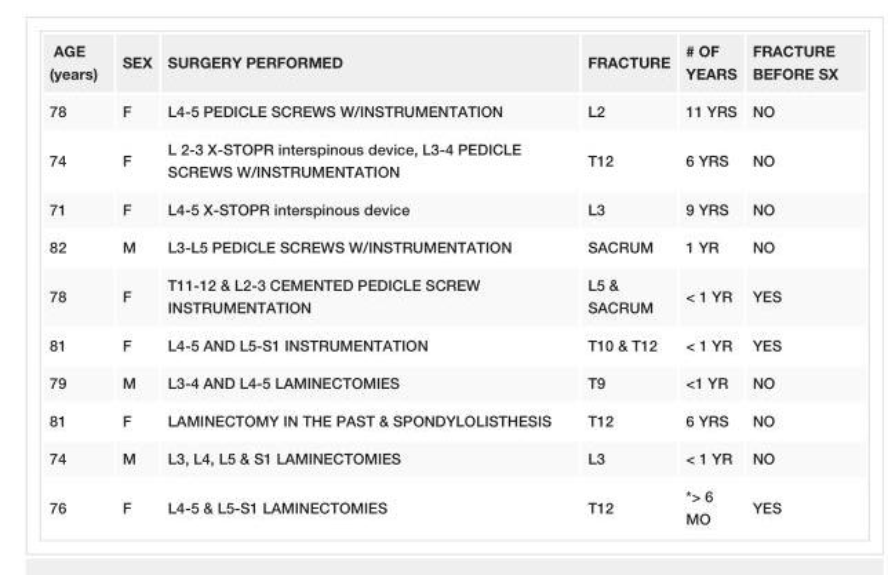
<table><tbody><tr><td>AGE (years)</td><td>SEX</td><td>SURGERY PERFORMED</td><td>FRACTURE</td><td># OF YEARS</td><td>FRACTURE BEFORE SX</td></tr><tr><td>78</td><td>F</td><td>L4-5 PEDICLE SCREWS W/INSTRUMENTATION</td><td>L2</td><td>11 YRS</td><td>NO</td></tr><tr><td>74</td><td>F</td><td>L 2-3 X-STOPR interspinous device, L3-4 PEDICLE SCREWS W/INSTRUMENTATION</td><td>T12</td><td>6 YRS</td><td>NO</td></tr><tr><td>71</td><td>F</td><td>L4-5 X-STOPR interspinous device</td><td>L3</td><td>9 YRS</td><td>NO</td></tr><tr><td>82</td><td>M</td><td>L3-L5 PEDICLE SCREWS W/INSTRUMENTATION</td><td>SACRUM</td><td>1 YR</td><td>NO</td></tr><tr><td>78</td><td>F</td><td>T11-12 &amp; L2-3 CEMENTED PEDICLE SCREW INSTRUMENTATION</td><td>L5 &amp; SACRUM</td><td>&lt; 1 YR</td><td>YES</td></tr><tr><td>81</td><td>F</td><td>L4-5 AND L5-S1 INSTRUMENTATION</td><td>T10 &amp; T12</td><td>&lt; 1 YR</td><td>YES</td></tr><tr><td>79</td><td>M</td><td>L3-4 AND L4-5 LAMINECTOMIES</td><td>T9</td><td>&lt;1 YR</td><td>NO</td></tr><tr><td>81</td><td>F</td><td>LAMINECTOMY IN THE PAST &amp; SPONDYLOLISTHESIS</td><td>T12</td><td>6 YRS</td><td>NO</td></tr><tr><td>74</td><td>M</td><td>L3, L4, L5 &amp; S1 LAMINECTOMIES</td><td>L3</td><td>&lt; 1 YR</td><td>NO</td></tr><tr><td>76</td><td>F</td><td>L4-5 &amp; L5-S1 LAMINECTOMIES</td><td>T12</td><td>*&gt; 6 MO</td><td>YES</td></tr></tbody></table>